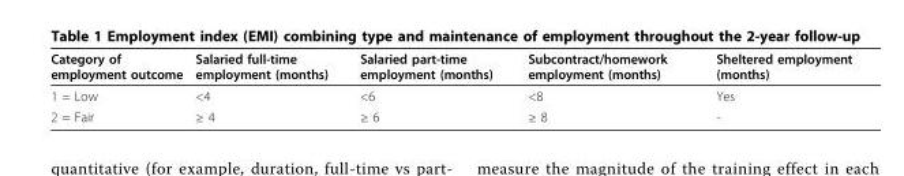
<table><thead><tr><td>Category of employment outcome</td><td>Salaried full-time employment (months)</td><td>Salaried part-time employment (months)</td><td>Subcontract/homework employment (months)</td><td>Sheltered employment (months)</td></tr></thead><tbody><tr><td>1 = Low</td><td>&lt;4</td><td>&lt;6</td><td>&lt;8</td><td>Yes</td></tr><tr><td>2 = Fair</td><td>≥ 4</td><td>≥ 6</td><td>≥ 8</td><td>-</td></tr></tbody></table>